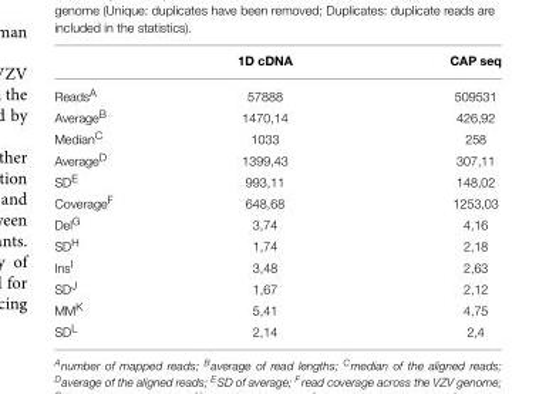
<table><thead><tr><td></td><td>1D cDNA</td><td>CAP seq</td></tr></thead><tbody><tr><td>Reads<sup>A</sup></td><td>57888</td><td>509531</td></tr><tr><td>Average<sup>B</sup></td><td>1470,14</td><td>426,92</td></tr><tr><td>Median<sup>C</sup></td><td>1033</td><td>258</td></tr><tr><td>Average<sup>D</sup></td><td>1399,43</td><td>307,11</td></tr><tr><td>SD<sup>E</sup></td><td>993,11</td><td>148,02</td></tr><tr><td>Coverage<sup>F</sup></td><td>648,68</td><td>1253,03</td></tr><tr><td>Del<sup>G</sup></td><td>3,74</td><td>4,16</td></tr><tr><td>SD<sup>H</sup></td><td>1,74</td><td>2,18</td></tr><tr><td>Ins<sup>I</sup></td><td>3,48</td><td>2,63</td></tr><tr><td>SD<sup>J</sup></td><td>1,67</td><td>2,12</td></tr><tr><td>MM<sup>K</sup></td><td>5,41</td><td>4,75</td></tr><tr><td>SD<sup>L</sup></td><td>2,14</td><td>2,4</td></tr></tbody></table>